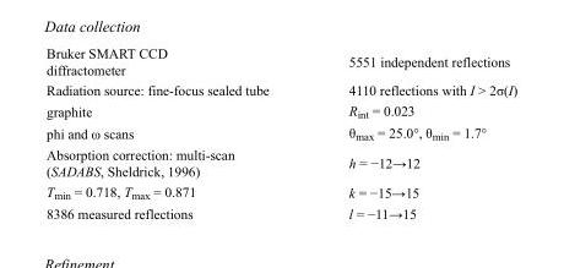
<table><tbody><tr><td>Bruker SMART CCD diffractometer</td><td>5551 independent reflections</td></tr><tr><td>Radiation source: fine-focus sealed tube</td><td>4110 reflections with I &gt; 2σ(I)</td></tr><tr><td>graphite</td><td>R<sub>int</sub> = 0.023</td></tr><tr><td>phi and ω scans</td><td>θ<sub>max</sub> = 25.0°, θ<sub>min</sub> = 1.7°</td></tr><tr><td>Absorption correction: multi-scan (SADABS, Sheldrick, 1996)</td><td>h = −12→12</td></tr><tr><td>T<sub>min</sub> = 0.718, T<sub>max</sub> = 0.871</td><td>k = −15→15</td></tr><tr><td>8386 measured reflections</td><td>l = −11→15</td></tr></tbody></table>